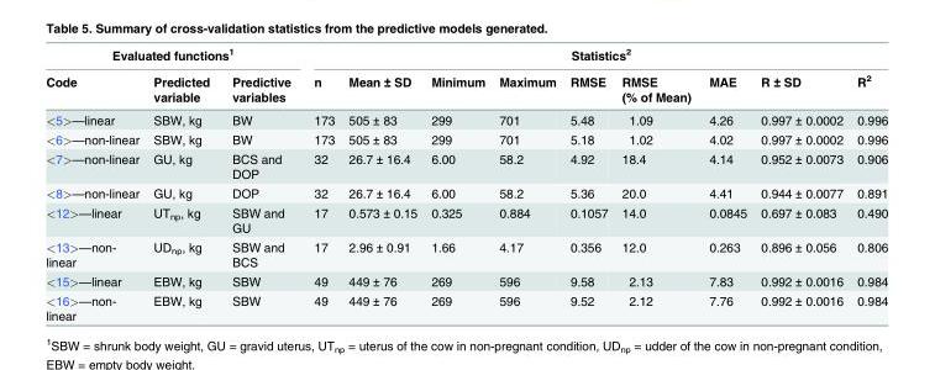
<table><thead><tr><td colspan="3">Evaluated functions<sup>1</sup></td><td colspan="9">Statistics<sup>2</sup></td></tr><tr><td>Code</td><td>Predicted variable</td><td>Predictive variables</td><td>n</td><td>Mean ± SD</td><td>Minimum</td><td>Maximum</td><td>RMSE</td><td>RMSE (% of Mean)</td><td>MAE</td><td>R ± SD</td><td>R<sup>2</sup></td></tr></thead><tbody><tr><td>&lt;5&gt;—linear</td><td>SBW, kg</td><td>BW</td><td>173</td><td>505 ± 83</td><td>299</td><td>701</td><td>5.48</td><td>1.09</td><td>4.26</td><td>0.997 ± 0.0002</td><td>0.996</td></tr><tr><td>&lt;6&gt;—non-linear</td><td>SBW, kg</td><td>BW</td><td>173</td><td>505 ± 83</td><td>299</td><td>701</td><td>5.18</td><td>1.02</td><td>4.02</td><td>0.997 ± 0.0002</td><td>0.996</td></tr><tr><td>&lt;7&gt;—non-linear</td><td>GU, kg</td><td>BCS and DOP</td><td>32</td><td>26.7 ± 16.4</td><td>6.00</td><td>58.2</td><td>4.92</td><td>18.4</td><td>4.14</td><td>0.952 ± 0.0073</td><td>0.906</td></tr><tr><td>&lt;8&gt;—non-linear</td><td>GU, kg</td><td>DOP</td><td>32</td><td>26.7 ± 16.4</td><td>6.00</td><td>58.2</td><td>5.36</td><td>20.0</td><td>4.41</td><td>0.944 ± 0.0077</td><td>0.891</td></tr><tr><td>&lt;12&gt;—linear</td><td>UT<sub>np</sub>, kg</td><td>SBW and GU</td><td>17</td><td>0.573 ± 0.15</td><td>0.325</td><td>0.884</td><td>0.1057</td><td>14.0</td><td>0.0845</td><td>0.697 ± 0.083</td><td>0.490</td></tr><tr><td>&lt;13&gt;—non- linear</td><td>UD<sub>np</sub>, kg</td><td>SBW and BCS</td><td>17</td><td>2.96 ± 0.91</td><td>1.66</td><td>4.17</td><td>0.356</td><td>12.0</td><td>0.263</td><td>0.896 ± 0.056</td><td>0.806</td></tr><tr><td>&lt;15&gt;—linear</td><td>EBW, kg</td><td>SBW</td><td>49</td><td>449 ± 76</td><td>269</td><td>596</td><td>9.58</td><td>2.13</td><td>7.83</td><td>0.992 ± 0.0016</td><td>0.984</td></tr><tr><td>&lt;16&gt;—non- linear</td><td>EBW, kg</td><td>SBW</td><td>49</td><td>449 ± 76</td><td>269</td><td>596</td><td>9.52</td><td>2.12</td><td>7.76</td><td>0.992 ± 0.0016</td><td>0.984</td></tr></tbody></table>